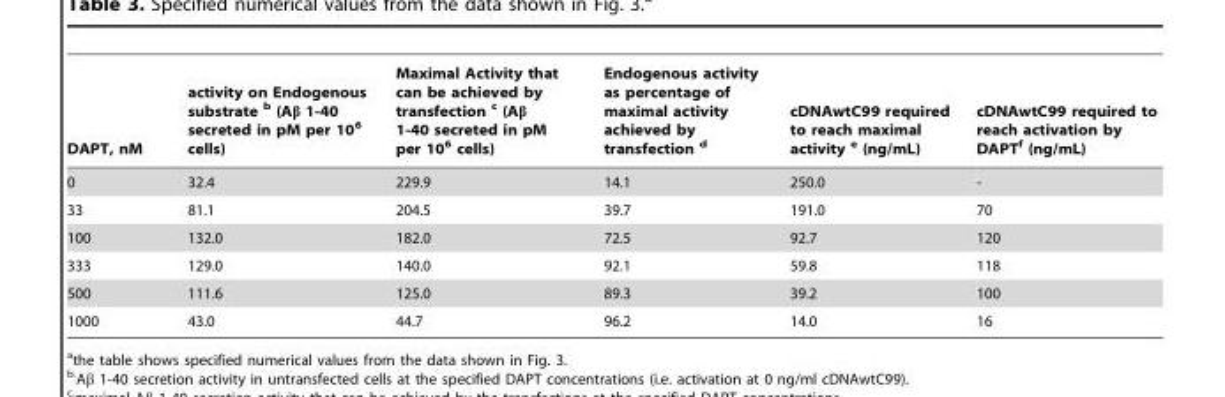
<table><thead><tr><td>DAPT, nM</td><td>activity on Endogenous substrate <sup>b</sup> (Aβ 1-40 secreted in pM per 10<sup>6</sup> cells)</td><td>Maximal Activity that can be achieved by transfection <sup>c</sup> (Aβ 1-40 secreted in pM per 10<sup>6</sup> cells)</td><td>Endogenous activity as percentage of maximal activity achieved by transfection d</td><td>cDNAwtC99 required to reach maximal activity <sup>e</sup> (ng/mL)</td><td>cDNAwtC99 required to reach activation by DAPT<sup>f</sup> (ng/mL)</td></tr></thead><tbody><tr><td>0</td><td>32.4</td><td>229.9</td><td>14.1</td><td>250.0</td><td>-</td></tr><tr><td>33</td><td>81.1</td><td>204.5</td><td>39.7</td><td>191.0</td><td>70</td></tr><tr><td>100</td><td>132.0</td><td>182.0</td><td>72.5</td><td>92.7</td><td>120</td></tr><tr><td>333</td><td>129.0</td><td>140.0</td><td>92.1</td><td>59.8</td><td>118</td></tr><tr><td>500</td><td>111.6</td><td>125.0</td><td>89.3</td><td>39.2</td><td>100</td></tr><tr><td>1000</td><td>43.0</td><td>44.7</td><td>96.2</td><td>14.0</td><td>16</td></tr></tbody></table>